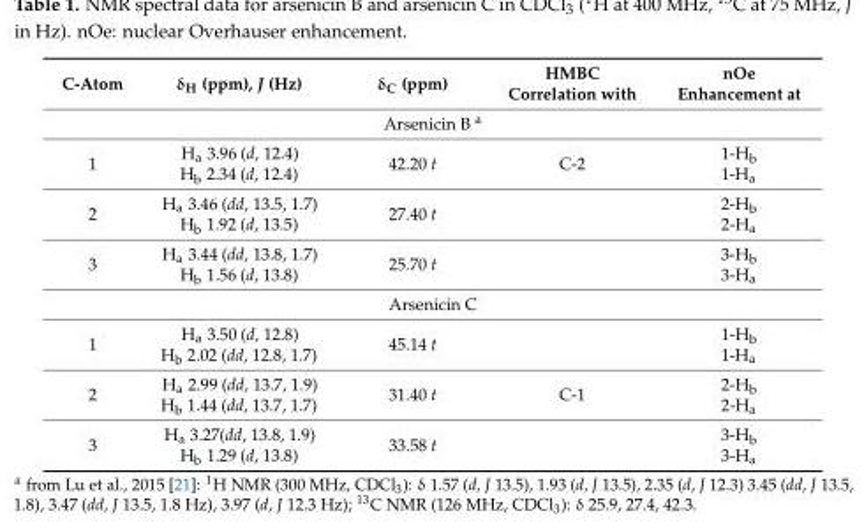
<table><thead><tr><td>C-Atom</td><td>δ<sub>H</sub> (ppm), J (Hz)</td><td>δ<sub>C</sub> (ppm)</td><td>HMBC Correlation with</td><td>nOe Enhancement at</td></tr></thead><tbody><tr><td colspan="5">Arsenicin B <sup>a</sup></td></tr><tr><td>1</td><td>H<sub>a</sub> 3.96 (d, 12.4) H<sub>b</sub> 2.34 (d, 12.4)</td><td>42.20 t</td><td>C-2</td><td>1-H<sub>b</sub> 1-H<sub>a</sub></td></tr><tr><td>2</td><td>H<sub>a</sub> 3.46 (dd, 13.5, 1.7) H<sub>b</sub> 1.92 (d, 13.5)</td><td>27.40 t</td><td></td><td>2-H<sub>b</sub> 2-H<sub>a</sub></td></tr><tr><td>3</td><td>H<sub>a</sub> 3.44 (dd, 13.8, 1.7) H<sub>b</sub> 1.56 (d, 13.8)</td><td>25.70 t</td><td></td><td>3-H<sub>b</sub> 3-H<sub>a</sub></td></tr><tr><td colspan="5">Arsenicin C</td></tr><tr><td>1</td><td>H<sub>a</sub> 3.50 (d, 12.8) H<sub>b</sub> 2.02 (dd, 12.8, 1.7)</td><td>45.14 t</td><td></td><td>1-H<sub>b</sub> 1-H<sub>a</sub></td></tr><tr><td>2</td><td>H<sub>a</sub> 2.99 (dd, 13.7, 1.9) H<sub>b</sub> 1.44 (dd, 13.7, 1.7)</td><td>31.40 t</td><td>C-1</td><td>2-H<sub>b</sub> 2-H<sub>a</sub></td></tr><tr><td>3</td><td>H<sub>a</sub> 3.27(dd, 13.8, 1.9) H<sub>b</sub> 1.29 (d, 13.8)</td><td>33.58 t</td><td></td><td>3-H<sub>b</sub> 3-H<sub>a</sub></td></tr></tbody></table>